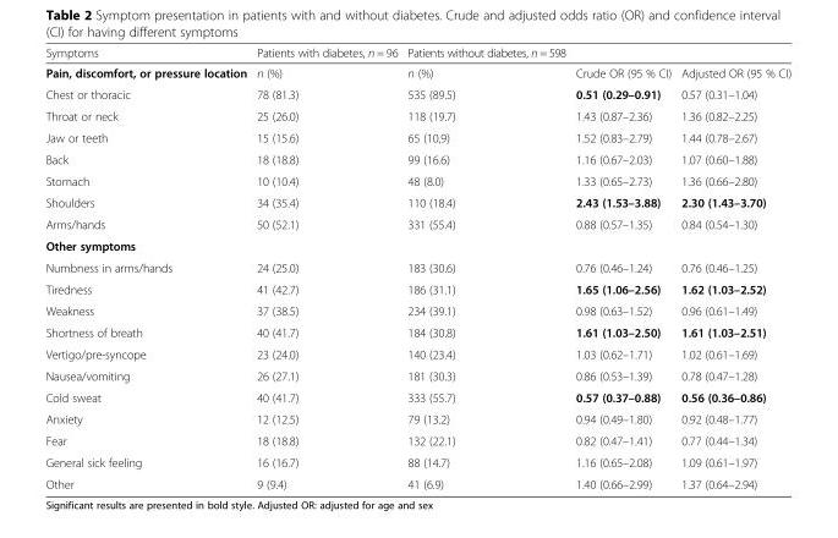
<table><thead><tr><td>Symptoms</td><td>Patients with diabetes, n = 96</td><td>Patients without diabetes, n = 598</td><td></td><td></td></tr></thead><tbody><tr><td>Pain, discomfort, or pressure location</td><td>n (%)</td><td>n (%)</td><td>Crude OR (95 % CI)</td><td>Adjusted OR (95 % CI)</td></tr><tr><td>Chest or thoracic</td><td>78 (81.3)</td><td>535 (89.5)</td><td>0.51 (0.29–0.91)</td><td>0.57 (0.31–1.04)</td></tr><tr><td>Throat or neck</td><td>25 (26.0)</td><td>118 (19.7)</td><td>1.43 (0.87–2.36)</td><td>1.36 (0.82–2.25)</td></tr><tr><td>Jaw or teeth</td><td>15 (15.6)</td><td>65 (10,9)</td><td>1.52 (0.83–2.79)</td><td>1.44 (0.78–2.67)</td></tr><tr><td>Back</td><td>18 (18.8)</td><td>99 (16.6)</td><td>1.16 (0.67–2.03)</td><td>1.07 (0.60–1.88)</td></tr><tr><td>Stomach</td><td>10 (10.4)</td><td>48 (8.0)</td><td>1.33 (0.65–2.73)</td><td>1.36 (0.66–2.80)</td></tr><tr><td>Shoulders</td><td>34 (35.4)</td><td>110 (18.4)</td><td>2.43 (1.53–3.88)</td><td>2.30 (1.43–3.70)</td></tr><tr><td>Arms/hands</td><td>50 (52.1)</td><td>331 (55.4)</td><td>0.88 (0.57–1.35)</td><td>0.84 (0.54–1.30)</td></tr><tr><td colspan="5">Other symptoms</td></tr><tr><td>Numbness in arms/hands</td><td>24 (25.0)</td><td>183 (30.6)</td><td>0.76 (0.46–1.24)</td><td>0.76 (0.46–1.25)</td></tr><tr><td>Tiredness</td><td>41 (42.7)</td><td>186 (31.1)</td><td>1.65 (1.06–2.56)</td><td>1.62 (1.03–2.52)</td></tr><tr><td>Weakness</td><td>37 (38.5)</td><td>234 (39.1)</td><td>0.98 (0.63–1.52)</td><td>0.96 (0.61–1.49)</td></tr><tr><td>Shortness of breath</td><td>40 (41.7)</td><td>184 (30.8)</td><td>1.61 (1.03–2.50)</td><td>1.61 (1.03–2.51)</td></tr><tr><td>Vertigo/pre-syncope</td><td>23 (24.0)</td><td>140 (23.4)</td><td>1.03 (0.62–1.71)</td><td>1.02 (0.61–1.69)</td></tr><tr><td>Nausea/vomiting</td><td>26 (27.1)</td><td>181 (30.3)</td><td>0.86 (0.53–1.39)</td><td>0.78 (0.47–1.28)</td></tr><tr><td>Cold sweat</td><td>40 (41.7)</td><td>333 (55.7)</td><td>0.57 (0.37–0.88)</td><td>0.56 (0.36–0.86)</td></tr><tr><td>Anxiety</td><td>12 (12.5)</td><td>79 (13.2)</td><td>0.94 (0.49–1.80)</td><td>0.92 (0.48–1.77)</td></tr><tr><td>Fear</td><td>18 (18.8)</td><td>132 (22.1)</td><td>0.82 (0.47–1.41)</td><td>0.77 (0.44–1.34)</td></tr><tr><td>General sick feeling</td><td>16 (16.7)</td><td>88 (14.7)</td><td>1.16 (0.65–2.08)</td><td>1.09 (0.61–1.97)</td></tr><tr><td>Other</td><td>9 (9.4)</td><td>41 (6.9)</td><td>1.40 (0.66–2.99)</td><td>1.37 (0.64–2.94)</td></tr></tbody></table>